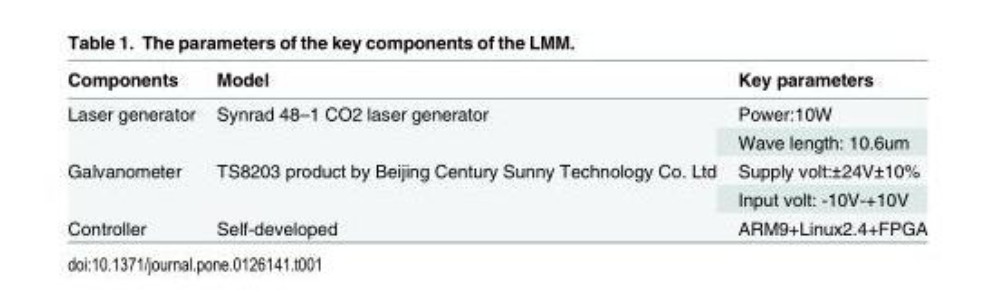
<table><thead><tr><td>Components</td><td>Model</td><td>Key parameters</td></tr></thead><tbody><tr><td rowspan="2">Laser generator</td><td rowspan="2">Synrad 48–1 CO2 laser generator</td><td>Power:10W</td></tr><tr><td>Wave length: 10.6um</td></tr><tr><td rowspan="2">Galvanometer</td><td rowspan="2">TS8203 product by Beijing Century Sunny Technology Co. Ltd</td><td>Supply volt:±24V±10%</td></tr><tr><td>Input volt: -10V-+10V</td></tr><tr><td>Controller</td><td>Self-developed</td><td>ARM9+Linux2.4+FPGA</td></tr></tbody></table>